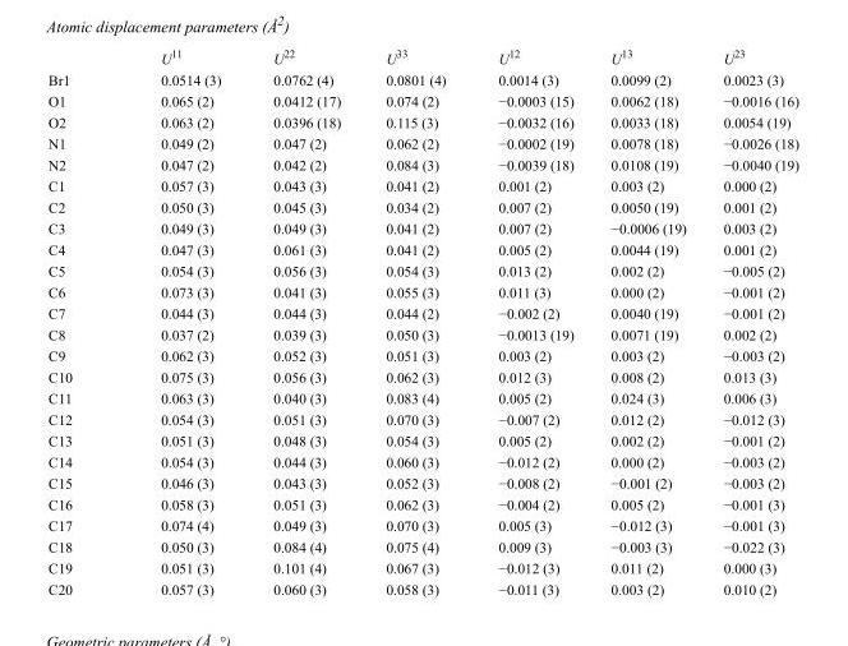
<table><thead><tr><td></td><td>U<sup>11</sup></td><td>U<sup>22</sup></td><td>U<sup>33</sup></td><td>U<sup>12</sup></td><td>U<sup>13</sup></td><td>U<sup>23</sup></td></tr></thead><tbody><tr><td>Br1</td><td>0.0514 (3)</td><td>0.0762 (4)</td><td>0.0801 (4)</td><td>0.0014 (3)</td><td>0.0099 (2)</td><td>0.0023 (3)</td></tr><tr><td>O1</td><td>0.065 (2)</td><td>0.0412 (17)</td><td>0.074 (2)</td><td>−0.0003 (15)</td><td>0.0062 (18)</td><td>−0.0016 (16)</td></tr><tr><td>O2</td><td>0.063 (2)</td><td>0.0396 (18)</td><td>0.115 (3)</td><td>−0.0032 (16)</td><td>0.0033 (18)</td><td>0.0054 (19)</td></tr><tr><td>N1</td><td>0.049 (2)</td><td>0.047 (2)</td><td>0.062 (2)</td><td>−0.0002 (19)</td><td>0.0078 (18)</td><td>−0.0026 (18)</td></tr><tr><td>N2</td><td>0.047 (2)</td><td>0.042 (2)</td><td>0.084 (3)</td><td>−0.0039 (18)</td><td>0.0108 (19)</td><td>−0.0040 (19)</td></tr><tr><td>C1</td><td>0.057 (3)</td><td>0.043 (3)</td><td>0.041 (2)</td><td>0.001 (2)</td><td>0.003 (2)</td><td>0.000 (2)</td></tr><tr><td>C2</td><td>0.050 (3)</td><td>0.045 (3)</td><td>0.034 (2)</td><td>0.007 (2)</td><td>0.0050 (19)</td><td>0.001 (2)</td></tr><tr><td>C3</td><td>0.049 (3)</td><td>0.049 (3)</td><td>0.041 (2)</td><td>0.007 (2)</td><td>−0.0006 (19)</td><td>0.003 (2)</td></tr><tr><td>C4</td><td>0.047 (3)</td><td>0.061 (3)</td><td>0.041 (2)</td><td>0.005 (2)</td><td>0.0044 (19)</td><td>0.001 (2)</td></tr><tr><td>C5</td><td>0.054 (3)</td><td>0.056 (3)</td><td>0.054 (3)</td><td>0.013 (2)</td><td>0.002 (2)</td><td>−0.005 (2)</td></tr><tr><td>C6</td><td>0.073 (3)</td><td>0.041 (3)</td><td>0.055 (3)</td><td>0.011 (3)</td><td>0.000 (2)</td><td>−0.001 (2)</td></tr><tr><td>C7</td><td>0.044 (3)</td><td>0.044 (3)</td><td>0.044 (2)</td><td>−0.002 (2)</td><td>0.0040 (19)</td><td>−0.001 (2)</td></tr><tr><td>C8</td><td>0.037 (2)</td><td>0.039 (3)</td><td>0.050 (3)</td><td>−0.0013 (19)</td><td>0.0071 (19)</td><td>0.002 (2)</td></tr><tr><td>C9</td><td>0.062 (3)</td><td>0.052 (3)</td><td>0.051 (3)</td><td>0.003 (2)</td><td>0.003 (2)</td><td>−0.003 (2)</td></tr><tr><td>C10</td><td>0.075 (3)</td><td>0.056 (3)</td><td>0.062 (3)</td><td>0.012 (3)</td><td>0.008 (2)</td><td>0.013 (3)</td></tr><tr><td>C11</td><td>0.063 (3)</td><td>0.040 (3)</td><td>0.083 (4)</td><td>0.005 (2)</td><td>0.024 (3)</td><td>0.006 (3)</td></tr><tr><td>C12</td><td>0.054 (3)</td><td>0.051 (3)</td><td>0.070 (3)</td><td>−0.007 (2)</td><td>0.012 (2)</td><td>−0.012 (3)</td></tr><tr><td>C13</td><td>0.051 (3)</td><td>0.048 (3)</td><td>0.054 (3)</td><td>0.005 (2)</td><td>0.002 (2)</td><td>−0.001 (2)</td></tr><tr><td>C14</td><td>0.054 (3)</td><td>0.044 (3)</td><td>0.060 (3)</td><td>−0.012 (2)</td><td>0.000 (2)</td><td>−0.003 (2)</td></tr><tr><td>C15</td><td>0.046 (3)</td><td>0.043 (3)</td><td>0.052 (3)</td><td>−0.008 (2)</td><td>−0.001 (2)</td><td>−0.003 (2)</td></tr><tr><td>C16</td><td>0.058 (3)</td><td>0.051 (3)</td><td>0.062 (3)</td><td>−0.004 (2)</td><td>0.005 (2)</td><td>−0.001 (3)</td></tr><tr><td>C17</td><td>0.074 (4)</td><td>0.049 (3)</td><td>0.070 (3)</td><td>0.005 (3)</td><td>−0.012 (3)</td><td>−0.001 (3)</td></tr><tr><td>C18</td><td>0.050 (3)</td><td>0.084 (4)</td><td>0.075 (4)</td><td>0.009 (3)</td><td>−0.003 (3)</td><td>−0.022 (3)</td></tr><tr><td>C19</td><td>0.051 (3)</td><td>0.101 (4)</td><td>0.067 (3)</td><td>−0.012 (3)</td><td>0.011 (2)</td><td>0.000 (3)</td></tr><tr><td>C20</td><td>0.057 (3)</td><td>0.060 (3)</td><td>0.058 (3)</td><td>−0.011 (3)</td><td>0.003 (2)</td><td>0.010 (2)</td></tr></tbody></table>